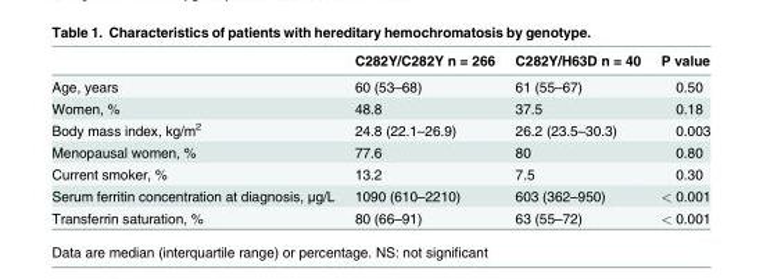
<table><thead><tr><td></td><td>C282Y/C282Y n = 266</td><td>C282Y/H63D n = 40</td><td>P value</td></tr></thead><tbody><tr><td>Age, years</td><td>60 (53–68)</td><td>61 (55–67)</td><td>0.50</td></tr><tr><td>Women, %</td><td>48.8</td><td>37.5</td><td>0.18</td></tr><tr><td>Body mass index, kg/m<sup>2</sup></td><td>24.8 (22.1–26.9)</td><td>26.2 (23.5–30.3)</td><td>0.003</td></tr><tr><td>Menopausal women, %</td><td>77.6</td><td>80</td><td>0.80</td></tr><tr><td>Current smoker, %</td><td>13.2</td><td>7.5</td><td>0.30</td></tr><tr><td>Serum ferritin concentration at diagnosis, μg/L</td><td>1090 (610–2210)</td><td>603 (362–950)</td><td>&lt; 0.001</td></tr><tr><td>Transferrin saturation, %</td><td>80 (66–91)</td><td>63 (55–72)</td><td>&lt; 0.001</td></tr></tbody></table>